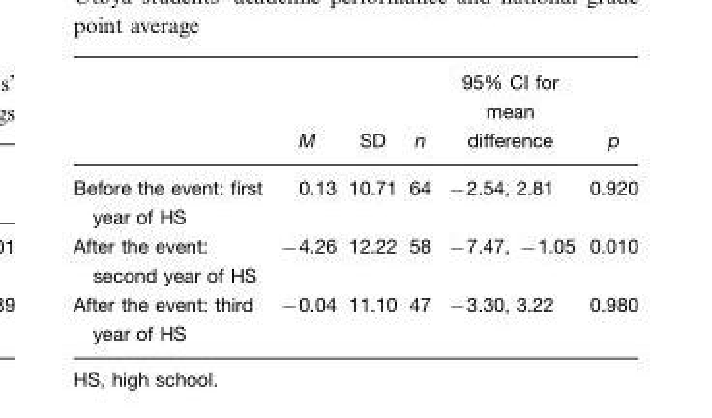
<table><thead><tr><td></td><td>M</td><td>SD</td><td>n</td><td>95% CI for mean difference</td><td>p</td></tr></thead><tbody><tr><td>Before the event: first year of HS</td><td>0.13</td><td>10.71</td><td>64</td><td>−2.54, 2.81</td><td>0.920</td></tr><tr><td>After the event: second year of HS</td><td>−4.26</td><td>12.22</td><td>58</td><td>−7.47, −1.05</td><td>0.010</td></tr><tr><td>After the event: third year of HS</td><td>−0.04</td><td>11.10</td><td>47</td><td>−3.30, 3.22</td><td>0.980</td></tr></tbody></table>